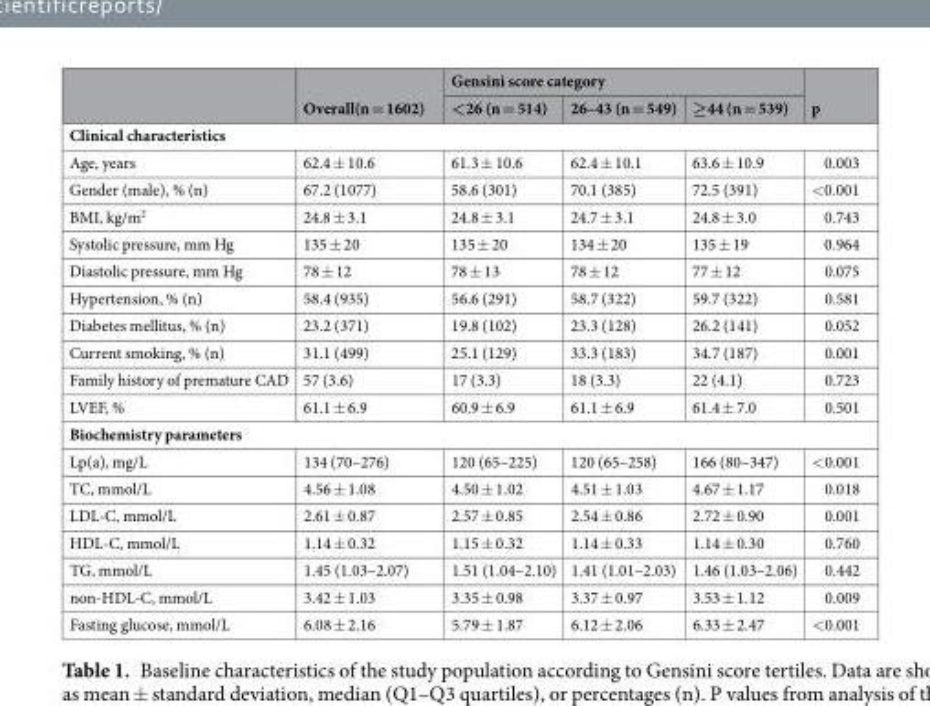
<table><thead><tr><td rowspan="2"></td><td rowspan="2">Overall(n = 1602)</td><td colspan="3">Gensini score category</td><td rowspan="2">p</td></tr><tr><td>&lt;26 (n = 514)</td><td>26–43 (n = 549)</td><td>≥44 (n = 539)</td></tr></thead><tbody><tr><td colspan="6">Clinical characteristics</td></tr><tr><td>Age, years</td><td>62.4 ± 10.6</td><td>61.3 ± 10.6</td><td>62.4 ± 10.1</td><td>63.6 ± 10.9</td><td>0.003</td></tr><tr><td>Gender (male), % (n)</td><td>67.2 (1077)</td><td>58.6 (301)</td><td>70.1 (385)</td><td>72.5 (391)</td><td>&lt;0.001</td></tr><tr><td>BMI, kg/m<sup>2</sup></td><td>24.8 ± 3.1</td><td>24.8 ± 3.1</td><td>24.7 ± 3.1</td><td>24.8 ± 3.0</td><td>0.743</td></tr><tr><td>Systolic pressure, mm Hg</td><td>135 ± 20</td><td>135 ± 20</td><td>134 ± 20</td><td>135 ± 19</td><td>0.964</td></tr><tr><td>Diastolic pressure, mm Hg</td><td>78 ± 12</td><td>78 ± 13</td><td>78 ± 12</td><td>77 ± 12</td><td>0.075</td></tr><tr><td>Hypertension, % (n)</td><td>58.4 (935)</td><td>56.6 (291)</td><td>58.7 (322)</td><td>59.7 (322)</td><td>0.581</td></tr><tr><td>Diabetes mellitus, % (n)</td><td>23.2 (371)</td><td>19.8 (102)</td><td>23.3 (128)</td><td>26.2 (141)</td><td>0.052</td></tr><tr><td>Current smoking, % (n)</td><td>31.1 (499)</td><td>25.1 (129)</td><td>33.3 (183)</td><td>34.7 (187)</td><td>0.001</td></tr><tr><td>Family history of premature CAD</td><td>57 (3.6)</td><td>17 (3.3)</td><td>18 (3.3)</td><td>22 (4.1)</td><td>0.723</td></tr><tr><td>LVEF, %</td><td>61.1 ± 6.9</td><td>60.9 ± 6.9</td><td>61.1 ± 6.9</td><td>61.4 ± 7.0</td><td>0.501</td></tr><tr><td colspan="6">Biochemistry parameters</td></tr><tr><td>Lp(a), mg/L</td><td>134 (70–276)</td><td>120 (65–225)</td><td>120 (65–258)</td><td>166 (80–347)</td><td>&lt;0.001</td></tr><tr><td>TC, mmol/L</td><td>4.56 ± 1.08</td><td>4.50 ± 1.02</td><td>4.51 ± 1.03</td><td>4.67 ± 1.17</td><td>0.018</td></tr><tr><td>LDL-C, mmol/L</td><td>2.61 ± 0.87</td><td>2.57 ± 0.85</td><td>2.54 ± 0.86</td><td>2.72 ± 0.90</td><td>0.001</td></tr><tr><td>HDL-C, mmol/L</td><td>1.14 ± 0.32</td><td>1.15 ± 0.32</td><td>1.14 ± 0.33</td><td>1.14 ± 0.30</td><td>0.760</td></tr><tr><td>TG, mmol/L</td><td>1.45 (1.03–2.07)</td><td>1.51 (1.04–2.10)</td><td>1.41 (1.01–2.03)</td><td>1.46 (1.03–2.06)</td><td>0.442</td></tr><tr><td>non-HDL-C, mmol/L</td><td>3.42 ± 1.03</td><td>3.35 ± 0.98</td><td>3.37 ± 0.97</td><td>3.53 ± 1.12</td><td>0.009</td></tr><tr><td>Fasting glucose, mmol/L</td><td>6.08 ± 2.16</td><td>5.79 ± 1.87</td><td>6.12 ± 2.06</td><td>6.33 ± 2.47</td><td>&lt;0.001</td></tr></tbody></table>